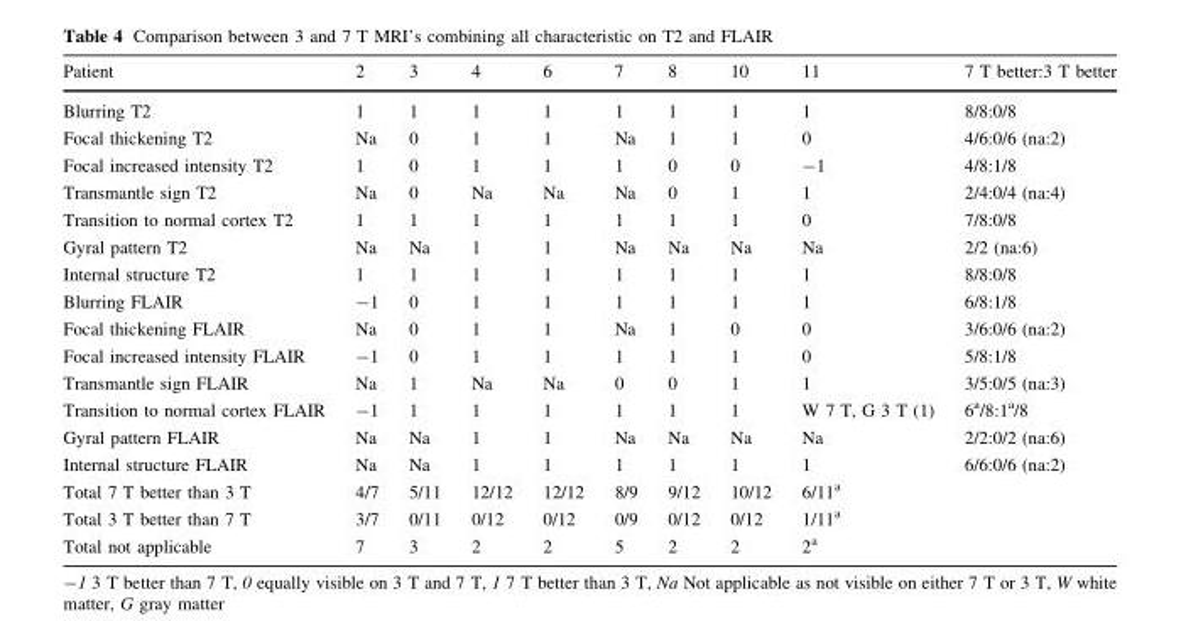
<table><thead><tr><td>Patient</td><td>2</td><td>3</td><td>4</td><td>6</td><td>7</td><td>8</td><td>10</td><td>11</td><td>7 T better:3 T better</td></tr></thead><tbody><tr><td>Blurring T2</td><td>1</td><td>1</td><td>1</td><td>1</td><td>1</td><td>1</td><td>1</td><td>1</td><td>8/8:0/8</td></tr><tr><td>Focal thickening T2</td><td>Na</td><td>0</td><td>1</td><td>1</td><td>Na</td><td>1</td><td>1</td><td>0</td><td>4/6:0/6 (na:2)</td></tr><tr><td>Focal increased intensity T2</td><td>1</td><td>0</td><td>1</td><td>1</td><td>1</td><td>0</td><td>0</td><td>-1</td><td>4/8:1/8</td></tr><tr><td>Transmantle sign T2</td><td>Na</td><td>0</td><td>Na</td><td>Na</td><td>Na</td><td>0</td><td>1</td><td>1</td><td>2/4:0/4 (na:4)</td></tr><tr><td>Transition to normal cortex T2</td><td>1</td><td>1</td><td>1</td><td>1</td><td>1</td><td>1</td><td>1</td><td>0</td><td>7/8:0/8</td></tr><tr><td>Gyral pattern T2</td><td>Na</td><td>Na</td><td>1</td><td>1</td><td>Na</td><td>Na</td><td>Na</td><td>Na</td><td>2/2 (na:6)</td></tr><tr><td>Internal structure T2</td><td>1</td><td>1</td><td>1</td><td>1</td><td>1</td><td>1</td><td>1</td><td>1</td><td>8/8:0/8</td></tr><tr><td>Blurring FLAIR</td><td>-1</td><td>0</td><td>1</td><td>1</td><td>1</td><td>1</td><td>1</td><td>1</td><td>6/8:1/8</td></tr><tr><td>Focal thickening FLAIR</td><td>Na</td><td>0</td><td>1</td><td>1</td><td>Na</td><td>1</td><td>0</td><td>0</td><td>3/6:0/6 (na:2)</td></tr><tr><td>Focal increased intensity FLAIR</td><td>-1</td><td>0</td><td>1</td><td>1</td><td>1</td><td>1</td><td>1</td><td>0</td><td>5/8:1/8</td></tr><tr><td>Transmantle sign FLAIR</td><td>Na</td><td>1</td><td>Na</td><td>Na</td><td>0</td><td>0</td><td>1</td><td>1</td><td>3/5:0/5 (na:3)</td></tr><tr><td>Transition to normal cortex FLAIR</td><td>-1</td><td>1</td><td>1</td><td>1</td><td>1</td><td>1</td><td>1</td><td>W 7 T, G 3 T (1)</td><td>6<sup>a</sup>/8:1<sup>a</sup>/8</td></tr><tr><td>Gyral pattern FLAIR</td><td>Na</td><td>Na</td><td>1</td><td>1</td><td>Na</td><td>Na</td><td>Na</td><td>Na</td><td>2/2:0/2 (na:6)</td></tr><tr><td>Internal structure FLAIR</td><td>Na</td><td>Na</td><td>1</td><td>1</td><td>1</td><td>1</td><td>1</td><td>1</td><td>6/6:0/6 (na:2)</td></tr><tr><td>Total 7 T better than 3 T</td><td>4/7</td><td>5/11</td><td>12/12</td><td>12/12</td><td>8/9</td><td>9/12</td><td>10/12</td><td>6/11<sup>a</sup></td><td></td></tr><tr><td>Total 3 T better than 7 T</td><td>3/7</td><td>0/11</td><td>0/12</td><td>0/12</td><td>0/9</td><td>0/12</td><td>0/12</td><td>1/11<sup>a</sup></td><td></td></tr><tr><td>Total not applicable</td><td>7</td><td>3</td><td>2</td><td>2</td><td>5</td><td>2</td><td>2</td><td>2<sup>a</sup></td><td></td></tr></tbody></table>